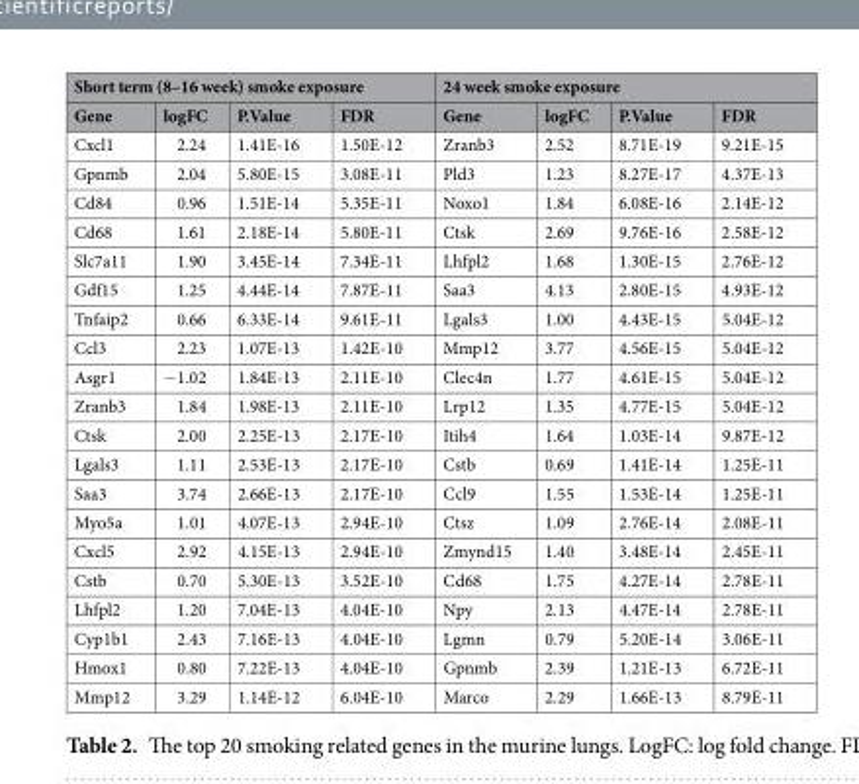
<table><thead><tr><td colspan="4">Short term (8–16 week) smoke exposure</td><td colspan="4">24 week smoke exposure</td></tr><tr><td>Gene</td><td>logFC</td><td>P.Value</td><td>FDR</td><td>Gene</td><td>logFC</td><td>P.Value</td><td>FDR</td></tr></thead><tbody><tr><td>Cxcl1</td><td>2.24</td><td>1.41E-16</td><td>1.50E-12</td><td>Zranb3</td><td>2.52</td><td>8.71E-19</td><td>9.21E-15</td></tr><tr><td>Gpnmb</td><td>2.04</td><td>5.80E-15</td><td>3.08E-11</td><td>Pld3</td><td>1.23</td><td>8.27E-17</td><td>4.37E-13</td></tr><tr><td>Cd84</td><td>0.96</td><td>1.51E-14</td><td>5.35E-11</td><td>Noxo1</td><td>1.84</td><td>6.08E-16</td><td>2.14E-12</td></tr><tr><td>Cd68</td><td>1.61</td><td>2.18E-14</td><td>5.80E-11</td><td>Ctsk</td><td>2.69</td><td>9.76E-16</td><td>2.58E-12</td></tr><tr><td>Slc7a11</td><td>1.90</td><td>3.45E-14</td><td>7.34E-11</td><td>Lhfpl2</td><td>1.68</td><td>1.30E-15</td><td>2.76E-12</td></tr><tr><td>Gdf15</td><td>1.25</td><td>4.44E-14</td><td>7.87E-11</td><td>Saa3</td><td>4.13</td><td>2.80E-15</td><td>4.93E-12</td></tr><tr><td>Tnfaip2</td><td>0.66</td><td>6.33E-14</td><td>9.61E-11</td><td>Lgals3</td><td>1.00</td><td>4.43E-15</td><td>5.04E-12</td></tr><tr><td>Ccl3</td><td>2.23</td><td>1.07E-13</td><td>1.42E-10</td><td>Mmp12</td><td>3.77</td><td>4.56E-15</td><td>5.04E-12</td></tr><tr><td>Asgr1</td><td>−1.02</td><td>1.84E-13</td><td>2.11E-10</td><td>Clec4n</td><td>1.77</td><td>4.61E-15</td><td>5.04E-12</td></tr><tr><td>Zranb3</td><td>1.84</td><td>1.98E-13</td><td>2.11E-10</td><td>Lrp12</td><td>1.35</td><td>4.77E-15</td><td>5.04E-12</td></tr><tr><td>Ctsk</td><td>2.00</td><td>2.25E-13</td><td>2.17E-10</td><td>Itih4</td><td>1.64</td><td>1.03E-14</td><td>9.87E-12</td></tr><tr><td>Lgals3</td><td>1.11</td><td>2.53E-13</td><td>2.17E-10</td><td>Cstb</td><td>0.69</td><td>1.41E-14</td><td>1.25E-11</td></tr><tr><td>Saa3</td><td>3.74</td><td>2.66E-13</td><td>2.17E-10</td><td>Ccl9</td><td>1.55</td><td>1.53E-14</td><td>1.25E-11</td></tr><tr><td>Myo5a</td><td>1.01</td><td>4.07E-13</td><td>2.94E-10</td><td>Ctsz</td><td>1.09</td><td>2.76E-14</td><td>2.08E-11</td></tr><tr><td>Cxcl5</td><td>2.92</td><td>4.15E-13</td><td>2.94E-10</td><td>Zmynd15</td><td>1.40</td><td>3.48E-14</td><td>2.45E-11</td></tr><tr><td>Cstb</td><td>0.70</td><td>5.30E-13</td><td>3.52E-10</td><td>Cd68</td><td>1.75</td><td>4.27E-14</td><td>2.78E-11</td></tr><tr><td>Lhfpl2</td><td>1.20</td><td>7.04E-13</td><td>4.04E-10</td><td>Npy</td><td>2.13</td><td>4.47E-14</td><td>2.78E-11</td></tr><tr><td>Cyp1b1</td><td>2.43</td><td>7.16E-13</td><td>4.04E-10</td><td>Lgmn</td><td>0.79</td><td>5.20E-14</td><td>3.06E-11</td></tr><tr><td>Hmox1</td><td>0.80</td><td>7.22E-13</td><td>4.04E-10</td><td>Gpnmb</td><td>2.39</td><td>1.21E-13</td><td>6.72E-11</td></tr><tr><td>Mmp12</td><td>3.29</td><td>1.14E-12</td><td>6.04E-10</td><td>Marco</td><td>2.29</td><td>1.66E-13</td><td>8.79E-11</td></tr></tbody></table>